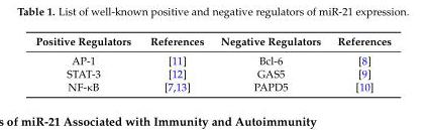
<table><thead><tr><td>Positive Regulators</td><td>References</td><td>Negative Regulators</td><td>References</td></tr></thead><tbody><tr><td>AP-1</td><td>[11]</td><td>Bcl-6</td><td>[8]</td></tr><tr><td>STAT-3</td><td>[12]</td><td>GAS5</td><td>[9]</td></tr><tr><td>NF-κB</td><td>[7,13]</td><td>PAPD5</td><td>[10]</td></tr></tbody></table>